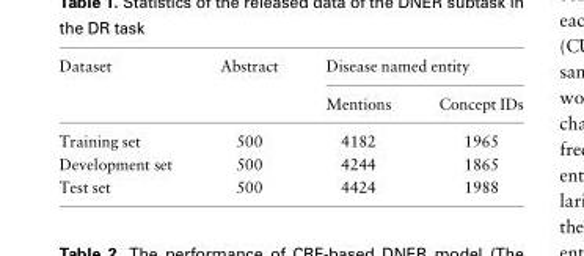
<table><thead><tr><td rowspan="2">Dataset</td><td rowspan="2">Abstract</td><td colspan="2">Disease named entity</td></tr><tr><td>Mentions</td><td>Concept IDs</td></tr></thead><tbody><tr><td>Training set</td><td>500</td><td>4182</td><td>1965</td></tr><tr><td>Development set</td><td>500</td><td>4244</td><td>1865</td></tr><tr><td>Test set</td><td>500</td><td>4424</td><td>1988</td></tr></tbody></table>